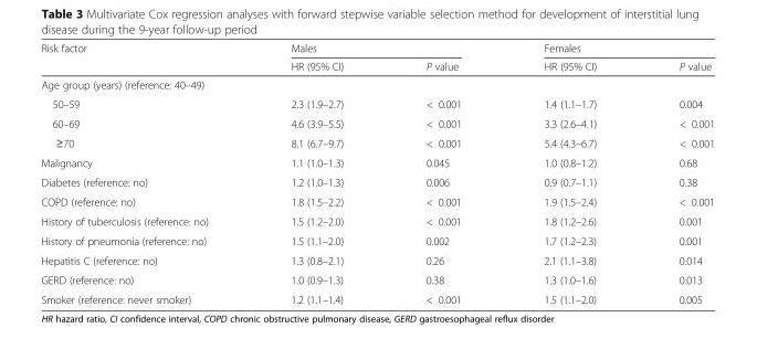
<table><thead><tr><td rowspan="2">Risk factor</td><td colspan="2">Males</td><td colspan="2">Females</td></tr><tr><td>HR (95% CI)</td><td>P value</td><td>HR (95% CI)</td><td>P value</td></tr></thead><tbody><tr><td colspan="5">Age group (years) (reference: 40–49)</td></tr><tr><td>50–59</td><td>2.3 (1.9–2.7)</td><td>&lt; 0.001</td><td>1.4 (1.1–1.7)</td><td>0.004</td></tr><tr><td>60–69</td><td>4.6 (3.9–5.5)</td><td>&lt; 0.001</td><td>3.3 (2.6–4.1)</td><td>&lt; 0.001</td></tr><tr><td>≥70</td><td>8.1 (6.7–9.7)</td><td>&lt; 0.001</td><td>5.4 (4.3–6.7)</td><td>&lt; 0.001</td></tr><tr><td>Malignancy</td><td>1.1 (1.0–1.3)</td><td>0.045</td><td>1.0 (0.8–1.2)</td><td>0.68</td></tr><tr><td>Diabetes (reference: no)</td><td>1.2 (1.0–1.3)</td><td>0.006</td><td>0.9 (0.7–1.1)</td><td>0.38</td></tr><tr><td>COPD (reference: no)</td><td>1.8 (1.5–2.2)</td><td>&lt; 0.001</td><td>1.9 (1.5–2.4)</td><td>&lt; 0.001</td></tr><tr><td>History of tuberculosis (reference: no)</td><td>1.5 (1.2–2.0)</td><td>&lt; 0.001</td><td>1.8 (1.2–2.6)</td><td>0.001</td></tr><tr><td>History of pneumonia (reference: no)</td><td>1.5 (1.1–2.0)</td><td>0.002</td><td>1.7 (1.2–2.3)</td><td>0.001</td></tr><tr><td>Hepatitis C (reference: no)</td><td>1.3 (0.8–2.1)</td><td>0.26</td><td>2.1 (1.1–3.8)</td><td>0.014</td></tr><tr><td>GERD (reference: no)</td><td>1.0 (0.9–1.3)</td><td>0.38</td><td>1.3 (1.0–1.6)</td><td>0.013</td></tr><tr><td>Smoker (reference: never smoker)</td><td>1.2 (1.1–1.4)</td><td>&lt; 0.001</td><td>1.5 (1.1–2.0)</td><td>0.005</td></tr></tbody></table>